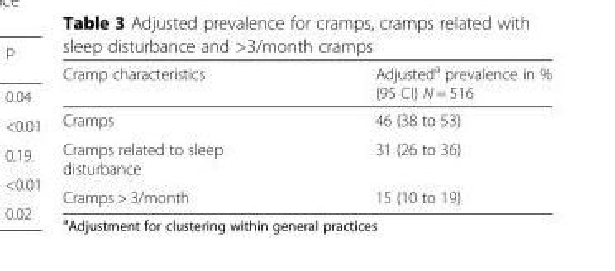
<table><thead><tr><td>Cramp characteristics</td><td>Adjusted<sup>a</sup> prevalence in % (95 CI) N = 516</td></tr></thead><tbody><tr><td>Cramps</td><td>46 (38 to 53)</td></tr><tr><td>Cramps related to sleep disturbance</td><td>31 (26 to 36)</td></tr><tr><td>Cramps &gt; 3/month</td><td>15 (10 to 19)</td></tr></tbody></table>